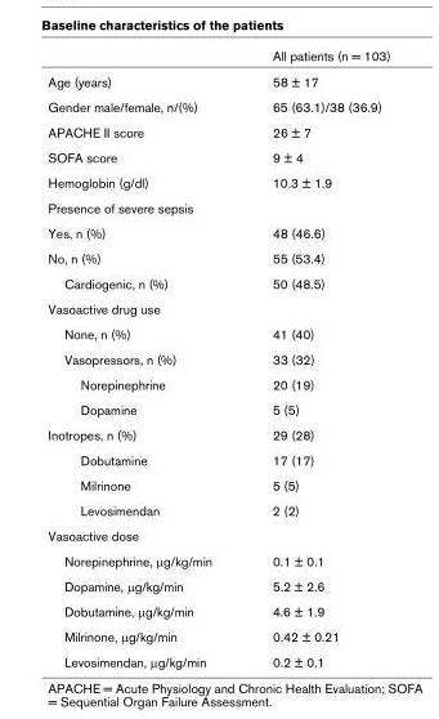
<table><thead><tr><td></td><td>All patients (n = 103)</td></tr></thead><tbody><tr><td>Age (years)</td><td>58 ± 17</td></tr><tr><td>Gender male/female, n/(%)</td><td>65 (63.1)/38 (36.9)</td></tr><tr><td>APACHE II score</td><td>26 ± 7</td></tr><tr><td>SOFA score</td><td>9 ± 4</td></tr><tr><td>Hemoglobin (g/dl)</td><td>10.3 ± 1.9</td></tr><tr><td colspan="2">Presence of severe sepsis</td></tr><tr><td>Yes, n (%)</td><td>48 (46.6)</td></tr><tr><td>No, n (%)</td><td>55 (53.4)</td></tr><tr><td>Cardiogenic, n (%)</td><td>50 (48.5)</td></tr><tr><td colspan="2">Vasoactive drug use</td></tr><tr><td>None, n (%)</td><td>41 (40)</td></tr><tr><td>Vasopressors, n (%)</td><td>33 (32)</td></tr><tr><td>Norepinephrine</td><td>20 (19)</td></tr><tr><td>Dopamine</td><td>5 (5)</td></tr><tr><td>Inotropes, n (%)</td><td>29 (28)</td></tr><tr><td>Dobutamine</td><td>17 (17)</td></tr><tr><td>Milrinone</td><td>5 (5)</td></tr><tr><td>Levosimendan</td><td>2 (2)</td></tr><tr><td colspan="2">Vasoactive dose</td></tr><tr><td>Norepinephrine, μg/kg/min</td><td>0.1 ± 0.1</td></tr><tr><td>Dopamine, μg/kg/min</td><td>5.2 ± 2.6</td></tr><tr><td>Dobutamine, μg/kg/min</td><td>4.6 ± 1.9</td></tr><tr><td>Milrinone, μg/kg/min</td><td>0.42 ± 0.21</td></tr><tr><td>Levosimendan, μg/kg/min</td><td>0.2 ± 0.1</td></tr></tbody></table>